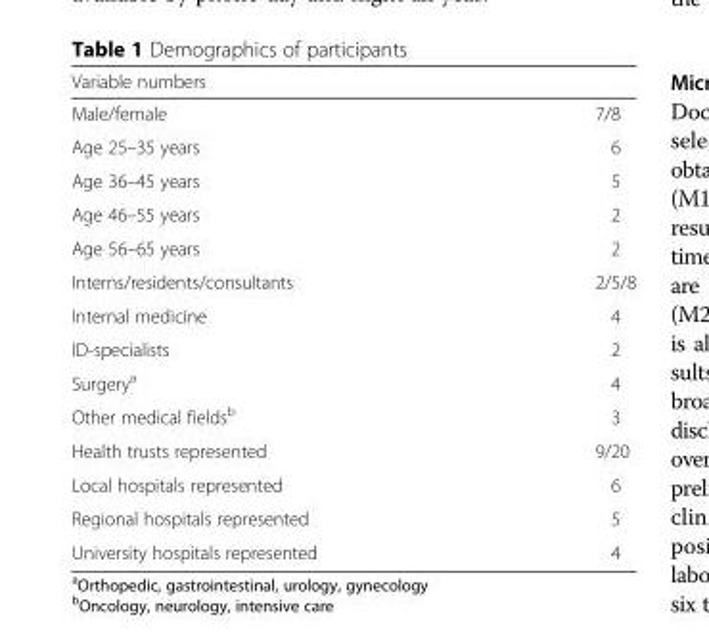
<table><thead><tr><td>Variable numbers</td><td></td></tr></thead><tbody><tr><td>Male/female</td><td>7/8</td></tr><tr><td>Age 25–35 years</td><td>6</td></tr><tr><td>Age 36–45 years</td><td>5</td></tr><tr><td>Age 46–55 years</td><td>2</td></tr><tr><td>Age 56–65 years</td><td>2</td></tr><tr><td>Interns/residents/consultants</td><td>2/5/8</td></tr><tr><td>Internal medicine</td><td>4</td></tr><tr><td>ID-specialists</td><td>2</td></tr><tr><td>Surgery<sup>a</sup></td><td>4</td></tr><tr><td>Other medical fields<sup>b</sup></td><td>3</td></tr><tr><td>Health trusts represented</td><td>9/20</td></tr><tr><td>Local hospitals represented</td><td>6</td></tr><tr><td>Regional hospitals represented</td><td>5</td></tr><tr><td>University hospitals represented</td><td>4</td></tr></tbody></table>